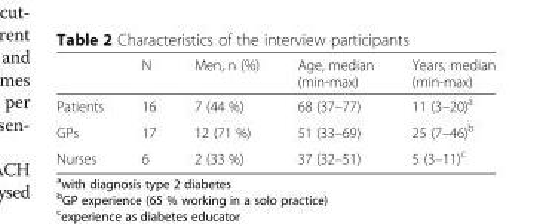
<table><thead><tr><td></td><td>N</td><td>Men, n (%)</td><td>Age, median (min-max)</td><td>Years, median (min-max)</td></tr></thead><tbody><tr><td>Patients</td><td>16</td><td>7 (44 %)</td><td>68 (37–77)</td><td>11 (3–20)<sup>a</sup></td></tr><tr><td>GPs</td><td>17</td><td>12 (71 %)</td><td>51 (33–69)</td><td>25 (7–46)<sup>b</sup></td></tr><tr><td>Nurses</td><td>6</td><td>2 (33 %)</td><td>37 (32–51)</td><td>5 (3–11)<sup>c</sup></td></tr></tbody></table>